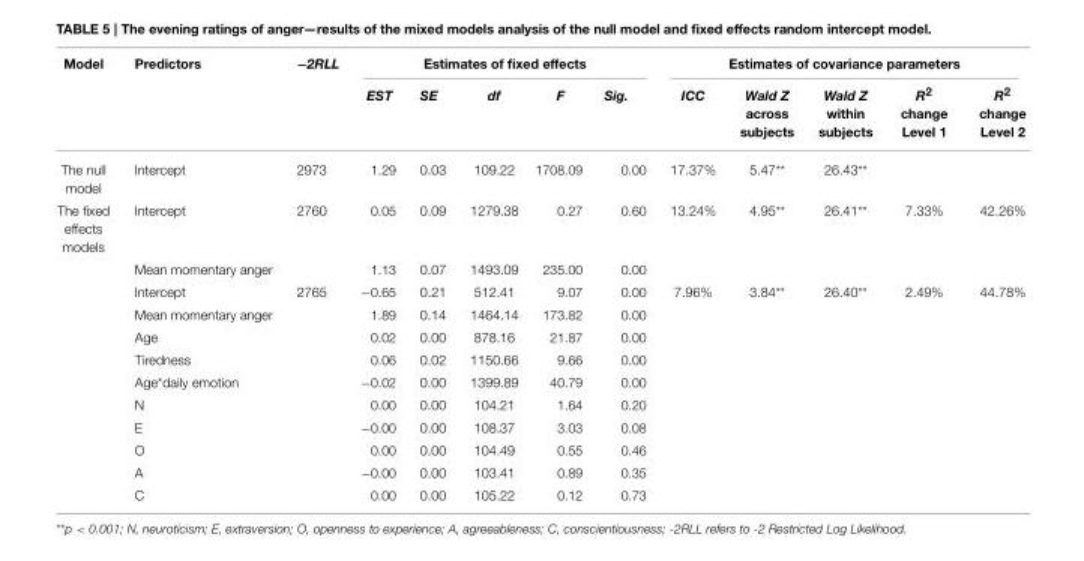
<table><thead><tr><td rowspan="2">Model</td><td rowspan="2">Predictors</td><td rowspan="2">−2RLL</td><td colspan="5">Estimates of fixed effects</td><td colspan="5">Estimates of covariance parameters</td></tr><tr><td>EST</td><td>SE</td><td>df</td><td>F</td><td>Sig.</td><td>ICC</td><td>Wald Z across subjects</td><td>Wald Z within subjects</td><td>R<sup>2</sup> change Level 1</td><td>R<sup>2</sup> change Level 2</td></tr></thead><tbody><tr><td>The null model</td><td>Intercept</td><td>2973</td><td>1.29</td><td>0.03</td><td>109.22</td><td>1708.09</td><td>0.00</td><td>17.37%</td><td>5.47**</td><td>26.43**</td><td></td><td></td></tr><tr><td rowspan="12">The fixed effects models</td><td>Intercept</td><td>2760</td><td>0.05</td><td>0.09</td><td>1279.38</td><td>0.27</td><td>0.60</td><td>13.24%</td><td>4.95**</td><td>26.41**</td><td>7.33%</td><td>42.26%</td></tr><tr><td>Mean momentary anger</td><td></td><td>1.13</td><td>0.07</td><td>1493.09</td><td>235.00</td><td>0.00</td><td></td><td></td><td></td><td></td><td></td></tr><tr><td>Intercept</td><td>2765</td><td>−0.65</td><td>0.21</td><td>512.41</td><td>9.07</td><td>0.00</td><td>7.96%</td><td>3.84**</td><td>26.40**</td><td>2.49%</td><td>44.78%</td></tr><tr><td>Mean momentary anger</td><td></td><td>1.89</td><td>0.14</td><td>1464.14</td><td>173.82</td><td>0.00</td><td></td><td></td><td></td><td></td><td></td></tr><tr><td>Age</td><td></td><td>0.02</td><td>0.00</td><td>878.16</td><td>21.87</td><td>0.00</td><td></td><td></td><td></td><td></td><td></td></tr><tr><td>Tiredness</td><td></td><td>0.06</td><td>0.02</td><td>1150.66</td><td>9.66</td><td>0.00</td><td></td><td></td><td></td><td></td><td></td></tr><tr><td>Age*daily emotion</td><td></td><td>−0.02</td><td>0.00</td><td>1399.89</td><td>40.79</td><td>0.00</td><td></td><td></td><td></td><td></td><td></td></tr><tr><td>N</td><td></td><td>0.00</td><td>0.00</td><td>104.21</td><td>1.64</td><td>0.20</td><td></td><td></td><td></td><td></td><td></td></tr><tr><td>E</td><td></td><td>−0.00</td><td>0.00</td><td>108.37</td><td>3.03</td><td>0.08</td><td></td><td></td><td></td><td></td><td></td></tr><tr><td>O</td><td></td><td>0.00</td><td>0.00</td><td>104.49</td><td>0.55</td><td>0.46</td><td></td><td></td><td></td><td></td><td></td></tr><tr><td>A</td><td></td><td>−0.00</td><td>0.00</td><td>103.41</td><td>0.89</td><td>0.35</td><td></td><td></td><td></td><td></td><td></td></tr><tr><td>C</td><td></td><td>0.00</td><td>0.00</td><td>105.22</td><td>0.12</td><td>0.73</td><td></td><td></td><td></td><td></td><td></td></tr></tbody></table>